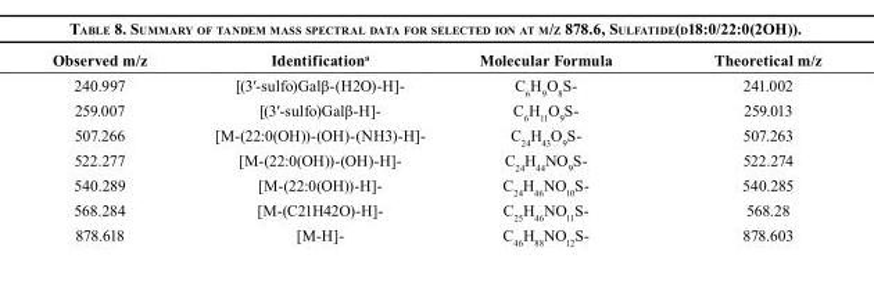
<table><thead><tr><td>Observed m/z</td><td>Identification<sup>a</sup></td><td>Molecular Formula</td><td>Theoretical m/z</td></tr></thead><tbody><tr><td>240.997</td><td>[(3′-sulfo)Galβ-(H2O)-H]-</td><td>C<sub>6</sub>H<sub>9</sub>O<sub>8</sub>S-</td><td>241.002</td></tr><tr><td>259.007</td><td>[(3′-sulfo)Galβ-H]-</td><td>C<sub>6</sub>H<sub>11</sub>O<sub>9</sub>S-</td><td>259.013</td></tr><tr><td>507.266</td><td>[M-(22:0(OH))-(OH)-(NH3)-H]-</td><td>C<sub>24</sub>H<sub>43</sub>O<sub>9</sub>S-</td><td>507.263</td></tr><tr><td>522.277</td><td>[M-(22:0(OH))-(OH)-H]-</td><td>C<sub>24</sub>H<sub>44</sub>NO<sub>9</sub>S-</td><td>522.274</td></tr><tr><td>540.289</td><td>[M-(22:0(OH))-H]-</td><td>C<sub>24</sub>H<sub>46</sub>NO<sub>10</sub>S-</td><td>540.285</td></tr><tr><td>568.284</td><td>[M-(C21H42O)-H]-</td><td>C<sub>25</sub>H<sub>46</sub>NO<sub>11</sub>S-</td><td>568.28</td></tr><tr><td>878.618</td><td>[M-H]-</td><td>C<sub>46</sub>H<sub>88</sub>NO<sub>12</sub>S-</td><td>878.603</td></tr></tbody></table>